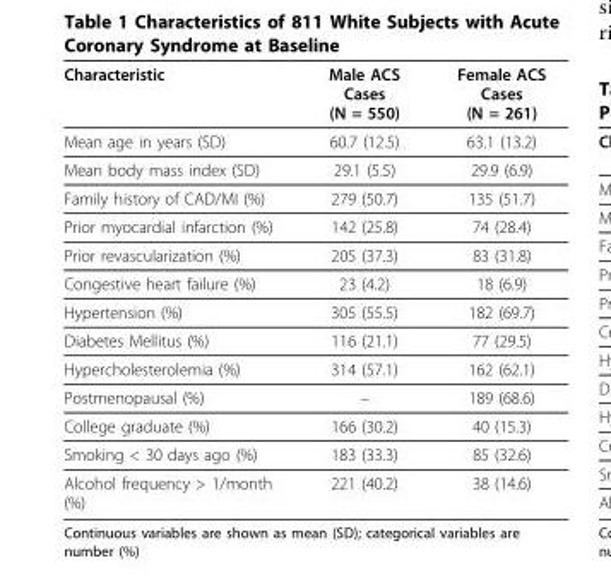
<table><thead><tr><td>Characteristic</td><td>Male ACS Cases (N = 550)</td><td>Female ACS Cases (N = 261)</td></tr></thead><tbody><tr><td>Mean age in years (SD)</td><td>60.7 (12.5)</td><td>63.1 (13.2)</td></tr><tr><td>Mean body mass index (SD)</td><td>29.1 (5.5)</td><td>29.9 (6.9)</td></tr><tr><td>Family history of CAD/MI (%)</td><td>279 (50.7)</td><td>135 (51.7)</td></tr><tr><td>Prior myocardial infarction (%)</td><td>142 (25.8)</td><td>74 (28.4)</td></tr><tr><td>Prior revascularization (%)</td><td>205 (37.3)</td><td>83 (31.8)</td></tr><tr><td>Congestive heart failure (%)</td><td>23 (4.2)</td><td>18 (6.9)</td></tr><tr><td>Hypertension (%)</td><td>305 (55.5)</td><td>182 (69.7)</td></tr><tr><td>Diabetes Mellitus (%)</td><td>116 (21.1)</td><td>77 (29.5)</td></tr><tr><td>Hypercholesterolemia (%)</td><td>314 (57.1)</td><td>162 (62.1)</td></tr><tr><td>Postmenopausal (%)</td><td>–</td><td>189 (68.6)</td></tr><tr><td>College graduate (%)</td><td>166 (30.2)</td><td>40 (15.3)</td></tr><tr><td>Smoking &lt; 30 days ago (%)</td><td>183 (33.3)</td><td>85 (32.6)</td></tr><tr><td>Alcohol frequency &gt; 1/month (%)</td><td>221 (40.2)</td><td>38 (14.6)</td></tr></tbody></table>